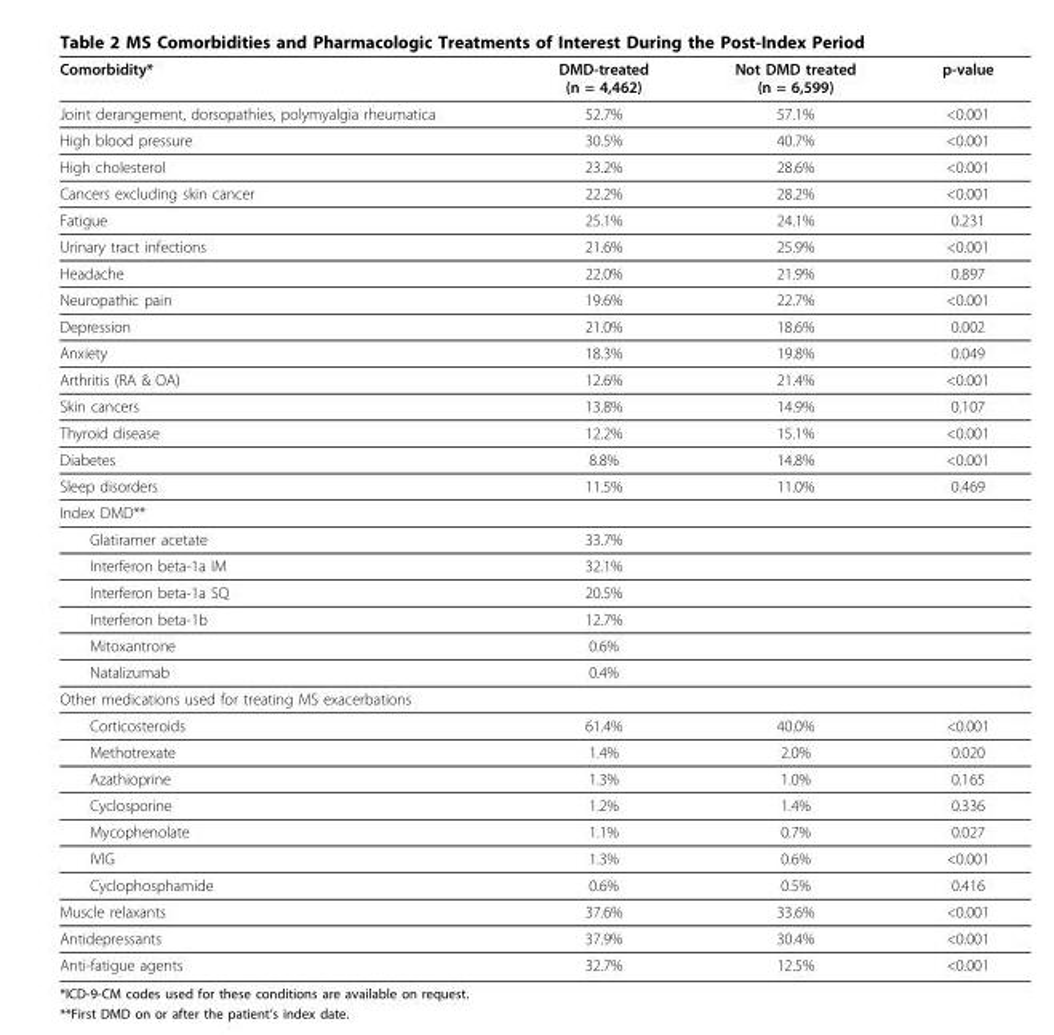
<table><thead><tr><td>Comorbidity*</td><td>DMD-treated (n = 4,462)</td><td>Not DMD treated (n = 6,599)</td><td>p-value</td></tr></thead><tbody><tr><td>Joint derangement, dorsopathies, polymyalgia rheumatica</td><td>52.7%</td><td>57.1%</td><td>&lt;0.001</td></tr><tr><td>High blood pressure</td><td>30.5%</td><td>40.7%</td><td>&lt;0.001</td></tr><tr><td>High cholesterol</td><td>23.2%</td><td>28.6%</td><td>&lt;0.001</td></tr><tr><td>Cancers excluding skin cancer</td><td>22.2%</td><td>28.2%</td><td>&lt;0.001</td></tr><tr><td>Fatigue</td><td>25.1%</td><td>24.1%</td><td>0.231</td></tr><tr><td>Urinary tract infections</td><td>21.6%</td><td>25.9%</td><td>&lt;0.001</td></tr><tr><td>Headache</td><td>22.0%</td><td>21.9%</td><td>0.897</td></tr><tr><td>Neuropathic pain</td><td>19.6%</td><td>22.7%</td><td>&lt;0.001</td></tr><tr><td>Depression</td><td>21.0%</td><td>18.6%</td><td>0.002</td></tr><tr><td>Anxiety</td><td>18.3%</td><td>19.8%</td><td>0.049</td></tr><tr><td>Arthritis (RA &amp; OA)</td><td>12.6%</td><td>21.4%</td><td>&lt;0.001</td></tr><tr><td>Skin cancers</td><td>13.8%</td><td>14.9%</td><td>0.107</td></tr><tr><td>Thyroid disease</td><td>12.2%</td><td>15.1%</td><td>&lt;0.001</td></tr><tr><td>Diabetes</td><td>8.8%</td><td>14.8%</td><td>&lt;0.001</td></tr><tr><td>Sleep disorders</td><td>11.5%</td><td>11.0%</td><td>0.469</td></tr><tr><td colspan="4">Index DMD**</td></tr><tr><td>Glatiramer acetate</td><td>33.7%</td><td></td><td></td></tr><tr><td>Interferon beta-1a IM</td><td>32.1%</td><td></td><td></td></tr><tr><td>Interferon beta-1a SQ</td><td>20.5%</td><td></td><td></td></tr><tr><td>Interferon beta-1b</td><td>12.7%</td><td></td><td></td></tr><tr><td>Mitoxantrone</td><td>0.6%</td><td></td><td></td></tr><tr><td>Natalizumab</td><td>0.4%</td><td></td><td></td></tr><tr><td colspan="4">Other medications used for treating MS exacerbations</td></tr><tr><td>Corticosteroids</td><td>61.4%</td><td>40.0%</td><td>&lt;0.001</td></tr><tr><td>Methotrexate</td><td>1.4%</td><td>2.0%</td><td>0.020</td></tr><tr><td>Azathioprine</td><td>1.3%</td><td>1.0%</td><td>0.165</td></tr><tr><td>Cyclosporine</td><td>1.2%</td><td>1.4%</td><td>0.336</td></tr><tr><td>Mycophenolate</td><td>1.1%</td><td>0.7%</td><td>0.027</td></tr><tr><td>IVIG</td><td>1.3%</td><td>0.6%</td><td>&lt;0.001</td></tr><tr><td>Cyclophosphamide</td><td>0.6%</td><td>0.5%</td><td>0.416</td></tr><tr><td>Muscle relaxants</td><td>37.6%</td><td>33.6%</td><td>&lt;0.001</td></tr><tr><td>Antidepressants</td><td>37.9%</td><td>30.4%</td><td>&lt;0.001</td></tr><tr><td>Anti-fatigue agents</td><td>32.7%</td><td>12.5%</td><td>&lt;0.001</td></tr></tbody></table>